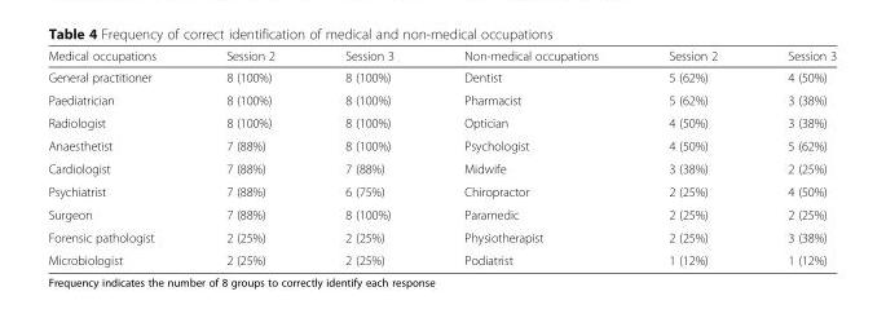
<table><thead><tr><td>Medical occupations</td><td>Session 2</td><td>Session 3</td><td>Non-medical occupations</td><td>Session 2</td><td>Session 3</td></tr></thead><tbody><tr><td>General practitioner</td><td>8 (100%)</td><td>8 (100%)</td><td>Dentist</td><td>5 (62%)</td><td>4 (50%)</td></tr><tr><td>Paediatrician</td><td>8 (100%)</td><td>8 (100%)</td><td>Pharmacist</td><td>5 (62%)</td><td>3 (38%)</td></tr><tr><td>Radiologist</td><td>8 (100%)</td><td>8 (100%)</td><td>Optician</td><td>4 (50%)</td><td>3 (38%)</td></tr><tr><td>Anaesthetist</td><td>7 (88%)</td><td>8 (100%)</td><td>Psychologist</td><td>4 (50%)</td><td>5 (62%)</td></tr><tr><td>Cardiologist</td><td>7 (88%)</td><td>7 (88%)</td><td>Midwife</td><td>3 (38%)</td><td>2 (25%)</td></tr><tr><td>Psychiatrist</td><td>7 (88%)</td><td>6 (75%)</td><td>Chiropractor</td><td>2 (25%)</td><td>4 (50%)</td></tr><tr><td>Surgeon</td><td>7 (88%)</td><td>8 (100%)</td><td>Paramedic</td><td>2 (25%)</td><td>2 (25%)</td></tr><tr><td>Forensic pathologist</td><td>2 (25%)</td><td>2 (25%)</td><td>Physiotherapist</td><td>2 (25%)</td><td>3 (38%)</td></tr><tr><td>Microbiologist</td><td>2 (25%)</td><td>2 (25%)</td><td>Podiatrist</td><td>1 (12%)</td><td>1 (12%)</td></tr></tbody></table>